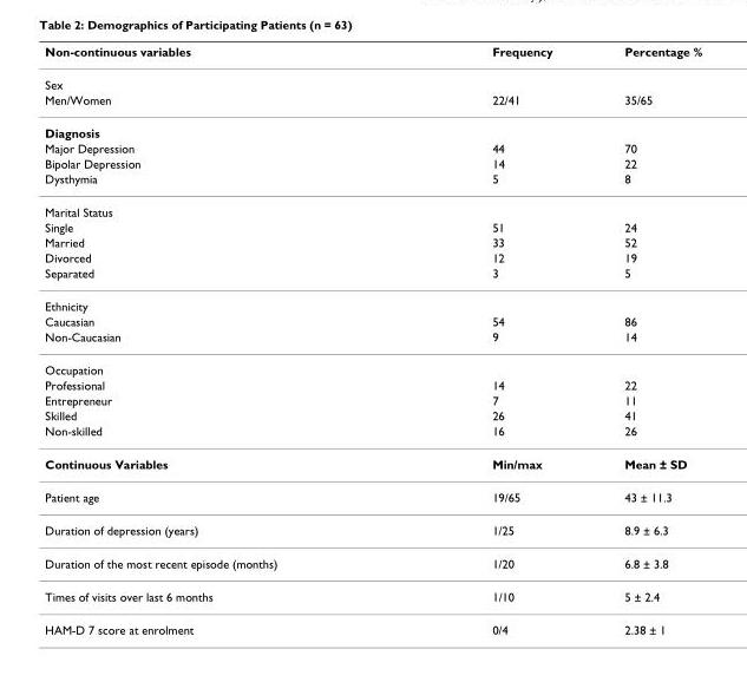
<table><thead><tr><td>Non-continuous variables</td><td>Frequency</td><td>Percentage %</td></tr></thead><tbody><tr><td colspan="3">Sex</td></tr><tr><td>Men/Women</td><td>22/41</td><td>35/65</td></tr><tr><td colspan="3">Diagnosis</td></tr><tr><td>Major Depression</td><td>44</td><td>70</td></tr><tr><td>Bipolar Depression</td><td>14</td><td>22</td></tr><tr><td>Dysthymia</td><td>5</td><td>8</td></tr><tr><td colspan="3">Marital Status</td></tr><tr><td>Single</td><td>51</td><td>24</td></tr><tr><td>Married</td><td>33</td><td>52</td></tr><tr><td>Divorced</td><td>12</td><td>19</td></tr><tr><td>Separated</td><td>3</td><td>5</td></tr><tr><td colspan="3">Ethnicity</td></tr><tr><td>Caucasian</td><td>54</td><td>86</td></tr><tr><td>Non-Caucasian</td><td>9</td><td>14</td></tr><tr><td colspan="3">Occupation</td></tr><tr><td>Professional</td><td>14</td><td>22</td></tr><tr><td>Entrepreneur</td><td>7</td><td>11</td></tr><tr><td>Skilled</td><td>26</td><td>41</td></tr><tr><td>Non-skilled</td><td>16</td><td>26</td></tr><tr><td>Continuous Variables</td><td>Min/max</td><td>Mean ± SD</td></tr><tr><td>Patient age</td><td>19/65</td><td>43 ± 11.3</td></tr><tr><td>Duration of depression (years)</td><td>1/25</td><td>8.9 ± 6.3</td></tr><tr><td>Duration of the most recent episode (months)</td><td>1/20</td><td>6.8 ± 3.8</td></tr><tr><td>Times of visits over last 6 months</td><td>1/10</td><td>5 ± 2.4</td></tr><tr><td>HAM-D 7 score at enrolment</td><td>0/4</td><td>2.38 ± 1</td></tr></tbody></table>